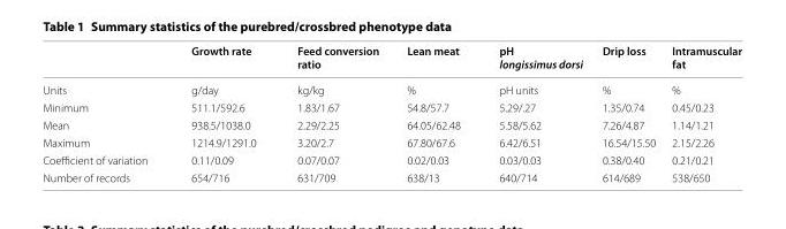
<table><thead><tr><td></td><td>Growth rate</td><td>Feed conversion ratio</td><td>Lean meat</td><td>pH longissimus dorsi</td><td>Drip loss</td><td>Intramuscular fat</td></tr></thead><tbody><tr><td>Units</td><td>g/day</td><td>kg/kg</td><td>%</td><td>pH units</td><td>%</td><td>%</td></tr><tr><td>Minimum</td><td>511.1/592.6</td><td>1.83/1.67</td><td>54.8/57.7</td><td>5.29/.27</td><td>1.35/0.74</td><td>0.45/0.23</td></tr><tr><td>Mean</td><td>938.5/1038.0</td><td>2.29/2.25</td><td>64.05/62.48</td><td>5.58/5.62</td><td>7.26/4.87</td><td>1.14/1.21</td></tr><tr><td>Maximum</td><td>1214.9/1291.0</td><td>3.20/2.7</td><td>67.80/67.6</td><td>6.42/6.51</td><td>16.54/15.50</td><td>2.15/2.26</td></tr><tr><td>Coefficient of variation</td><td>0.11/0.09</td><td>0.07/0.07</td><td>0.02/0.03</td><td>0.03/0.03</td><td>0.38/0.40</td><td>0.21/0.21</td></tr><tr><td>Number of records</td><td>654/716</td><td>631/709</td><td>638/13</td><td>640/714</td><td>614/689</td><td>538/650</td></tr></tbody></table>